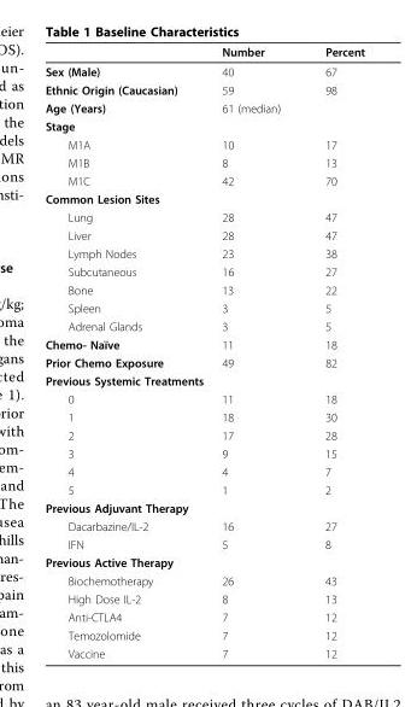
<table><thead><tr><td></td><td>Number</td><td>Percent</td></tr></thead><tbody><tr><td>Sex (Male)</td><td>40</td><td>67</td></tr><tr><td>Ethnic Origin (Caucasian)</td><td>59</td><td>98</td></tr><tr><td>Age (Years)</td><td>61 (median)</td><td></td></tr><tr><td colspan="3">Stage</td></tr><tr><td>M1A</td><td>10</td><td>17</td></tr><tr><td>M1B</td><td>8</td><td>13</td></tr><tr><td>M1C</td><td>42</td><td>70</td></tr><tr><td colspan="3">Common Lesion Sites</td></tr><tr><td>Lung</td><td>28</td><td>47</td></tr><tr><td>Liver</td><td>28</td><td>47</td></tr><tr><td>Lymph Nodes</td><td>23</td><td>38</td></tr><tr><td>Subcutaneous</td><td>16</td><td>27</td></tr><tr><td>Bone</td><td>13</td><td>22</td></tr><tr><td>Spleen</td><td>3</td><td>5</td></tr><tr><td>Adrenal Glands</td><td>3</td><td>5</td></tr><tr><td>Chemo- Naïve</td><td>11</td><td>18</td></tr><tr><td>Prior Chemo Exposure</td><td>49</td><td>82</td></tr><tr><td colspan="3">Previous Systemic Treatments</td></tr><tr><td>0</td><td>11</td><td>18</td></tr><tr><td>1</td><td>18</td><td>30</td></tr><tr><td>2</td><td>17</td><td>28</td></tr><tr><td>3</td><td>9</td><td>15</td></tr><tr><td>4</td><td>4</td><td>7</td></tr><tr><td>5</td><td>1</td><td>2</td></tr><tr><td colspan="3">Previous Adjuvant Therapy</td></tr><tr><td>Dacarbazine/IL-2</td><td>16</td><td>27</td></tr><tr><td>IFN</td><td>5</td><td>8</td></tr><tr><td colspan="3">Previous Active Therapy</td></tr><tr><td>Biochemotherapy</td><td>26</td><td>43</td></tr><tr><td>High Dose IL-2</td><td>8</td><td>13</td></tr><tr><td>Anti-CTLA4</td><td>7</td><td>12</td></tr><tr><td>Temozolomide</td><td>7</td><td>12</td></tr><tr><td>Vaccine</td><td>7</td><td>12</td></tr></tbody></table>